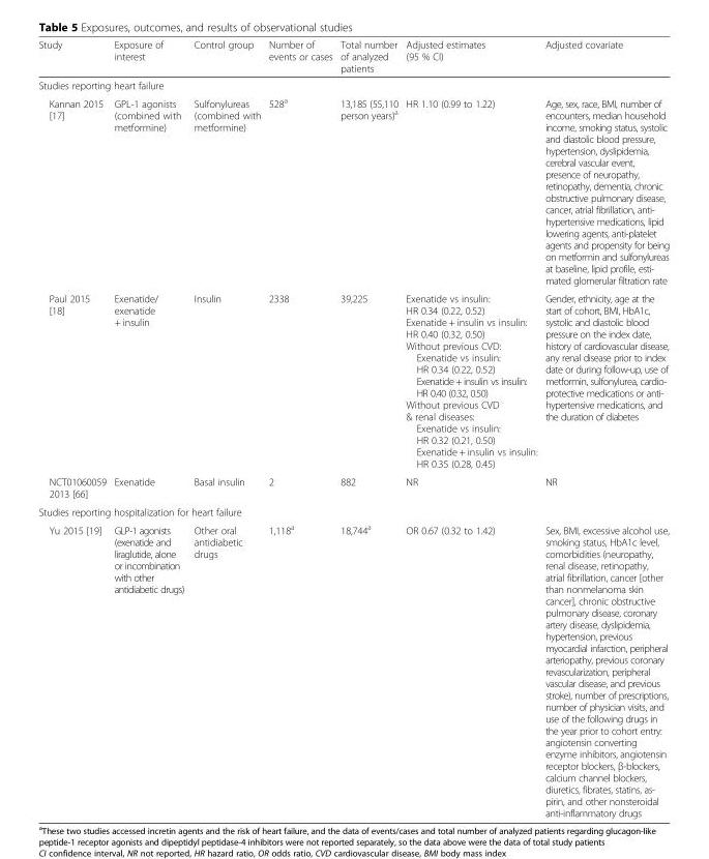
<table><thead><tr><td>Study</td><td>Exposure of interest</td><td>Control group</td><td>Number of events or cases</td><td>Total number of analyzed patients</td><td>Adjusted estimates (95 % CI)</td><td>Adjusted covariate</td></tr></thead><tbody><tr><td colspan="7">Studies reporting heart failure</td></tr><tr><td>Kannan 2015 [17]</td><td>GPL-1 agonists (combined with metformine)</td><td>Sulfonylureas (combined with metformine)</td><td>528<sup>a</sup></td><td>13,185 (55,110 person years)<sup>a</sup></td><td>HR 1.10 (0.99 to 1.22)</td><td>Age, sex, race, BMI, number of encounters, median household income, smoking status, systolic and diastolic blood pressure, hypertension, dyslipidemia, cerebral vascular event, presence of neuropathy, retinopathy, dementia, chronic obstructive pulmonary disease, cancer, atrial fibrillation, anti- hypertensive medications, lipid lowering agents, anti-platelet agents and propensity for being on metformin and sulfonylureas at baseline, lipid profile, esti- mated glomerular filtration rate</td></tr><tr><td>Paul 2015 [18]</td><td>Exenatide/ exenatide + insulin</td><td>Insulin</td><td>2338</td><td>39,225</td><td>Exenatide vs insulin: HR 0.34 (0.22, 0.52) Exenatide + insulin vs insulin: HR 0.40 (0.32, 0.50) Without previous CVD: Exenatide vs insulin: HR 0.34 (0.22, 0.52) Exenatide + insulin vs insulin: HR 0.40 (0.32, 0.50) Without previous CVD &amp; renal diseases: Exenatide vs insulin: HR 0.32 (0.21, 0.50) Exenatide + insulin vs insulin: HR 0.35 (0.28, 0.45)</td><td>Gender, ethnicity, age at the start of cohort, BMI, HbA1c, systolic and diastolic blood pressure on the index date, history of cardiovascular disease, any renal disease prior to index date or during follow-up, use of metformin, sulfonylurea, cardio- protective medications or anti- hypertensive medications, and the duration of diabetes</td></tr><tr><td>NCT01060059 2013 [66]</td><td>Exenatide</td><td>Basal insulin</td><td>2</td><td>882</td><td>NR</td><td>NR</td></tr><tr><td colspan="7">Studies reporting hospitalization for heart failure</td></tr><tr><td>Yu 2015 [19]</td><td>GLP-1 agonists (exenatide and liraglutide, alone or incombination with other antidiabetic drugs)</td><td>Other oral antidiabetic drugs</td><td>1,118<sup>a</sup></td><td>18,744<sup>a</sup></td><td>OR 0.67 (0.32 to 1.42)</td><td>Sex, BMI, excessive alcohol use, smoking status, HbA1c level, comorbidities (neuropathy, renal disease, retinopathy, atrial fibrillation, cancer [other than nonmelanoma skin cancer], chronic obstructive pulmonary disease, coronary artery disease, dyslipidemia, hypertension, previous myocardial infarction, peripheral arteriopathy, previous coronary revascularization, peripheral vascular disease, and previous stroke), number of prescriptions, number of physician visits, and use of the following drugs in the year prior to cohort entry: angiotensin converting enzyme inhibitors, angiotensin receptor blockers, β-blockers, calcium channel blockers, diuretics, fibrates, statins, as- pirin, and other nonsteroidal anti-inflammatory drugs</td></tr></tbody></table>